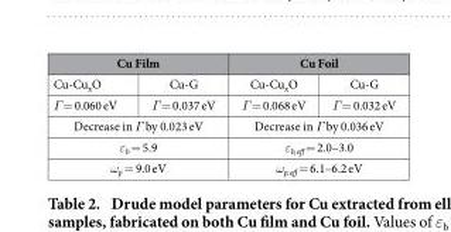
<table><thead><tr><td colspan="2">Cu Film</td><td colspan="2">Cu Foil</td></tr><tr><td>Cu-Cu<sub>x</sub>O</td><td>Cu-G</td><td>Cu-Cu<sub>x</sub>O</td><td>Cu-G</td></tr></thead><tbody><tr><td>Γ = 0.060 eV</td><td>Γ = 0.037 eV</td><td>Γ = 0.068 eV</td><td>Γ = 0.032 eV</td></tr><tr><td colspan="2">Decrease in Γ by 0.023 eV</td><td colspan="2">Decrease in Γ by 0.036 eV</td></tr><tr><td colspan="2">ε<sub>b</sub> = 5.9</td><td colspan="2">ε<sub>b,eff</sub> = 2.0–3.0</td></tr><tr><td colspan="2">ω<sub>p</sub> = 9.0 eV</td><td colspan="2">ω<sub>p,eff</sub> = 6.1–6.2 eV</td></tr></tbody></table>